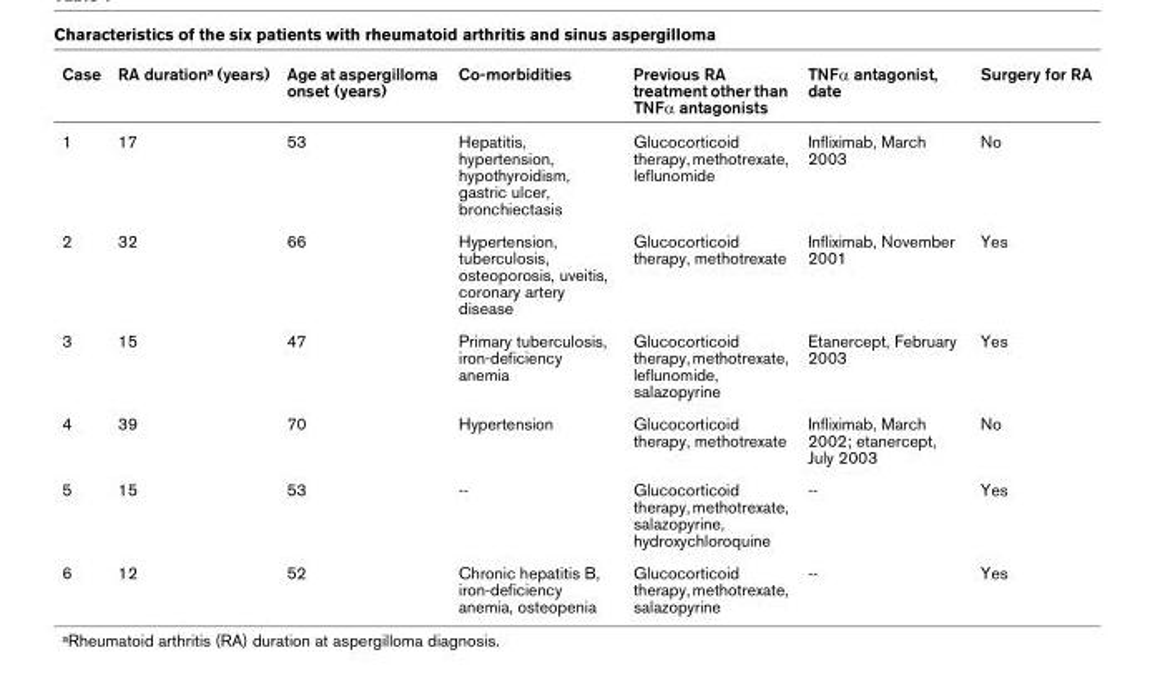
<table><thead><tr><td>Case</td><td>RA duration<sup>a</sup> (years)</td><td>Age at aspergilloma onset (years)</td><td>Co-morbidities</td><td>Previous RA treatment other than TNFα antagonists</td><td>TNFα antagonist, date</td><td>Surgery for RA</td></tr></thead><tbody><tr><td>1</td><td>17</td><td>53</td><td>Hepatitis, hypertension, hypothyroidism, gastric ulcer, bronchiectasis</td><td>Glucocorticoid therapy, methotrexate, leflunomide</td><td>Infliximab, March 2003</td><td>No</td></tr><tr><td>2</td><td>32</td><td>66</td><td>Hypertension, tuberculosis, osteoporosis, uveitis, coronary artery disease</td><td>Glucocorticoid therapy, methotrexate</td><td>Infliximab, November 2001</td><td>Yes</td></tr><tr><td>3</td><td>15</td><td>47</td><td>Primary tuberculosis, iron-deficiency anemia</td><td>Glucocorticoid therapy, methotrexate, leflunomide, salazopyrine</td><td>Etanercept, February 2003</td><td>Yes</td></tr><tr><td>4</td><td>39</td><td>70</td><td>Hypertension</td><td>Glucocorticoid therapy, methotrexate</td><td>Infliximab, March 2002; etanercept, July 2003</td><td>No</td></tr><tr><td>5</td><td>15</td><td>53</td><td>--</td><td>Glucocorticoid therapy, methotrexate, salazopyrine, hydroxychloroquine</td><td>--</td><td>Yes</td></tr><tr><td>6</td><td>12</td><td>52</td><td>Chronic hepatitis B, iron-deficiency anemia, osteopenia</td><td>Glucocorticoid therapy, methotrexate, salazopyrine</td><td>--</td><td>Yes</td></tr></tbody></table>